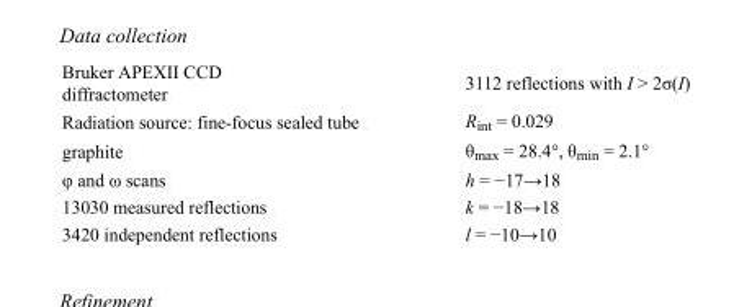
<table><tbody><tr><td>Bruker APEXII CCD diffractometer</td><td>3112 reflections with I &gt; 2σ(I)</td></tr><tr><td>Radiation source: fine-focus sealed tube</td><td>R<sub>int</sub> = 0.029</td></tr><tr><td>graphite</td><td>θ<sub>max</sub> = 28.4°, θ<sub>min</sub> = 2.1°</td></tr><tr><td>φ and ω scans</td><td>h = −17→18</td></tr><tr><td>13030 measured reflections</td><td>k = −18→18</td></tr><tr><td>3420 independent reflections</td><td>l = −10→10</td></tr></tbody></table>